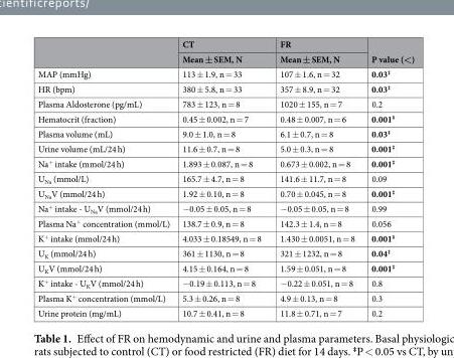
<table><thead><tr><td rowspan="2"></td><td rowspan="2">CT Mean ± SEM, N</td><td rowspan="2">FR Mean ± SEM, N</td><td rowspan="2">P value (&lt;)</td></tr><tr></tr></thead><tbody><tr><td>MAP (mmHg)</td><td>113 ± 1.9, n = 33</td><td>107 ± 1.6, n = 32</td><td>0.03<sup>‡</sup></td></tr><tr><td>HR (bpm)</td><td>380 ± 5.8, n = 33</td><td>357 ± 8.9, n = 32</td><td>0.03<sup>‡</sup></td></tr><tr><td>Plasma Aldosterone (pg/mL)</td><td>783 ± 123, n = 8</td><td>1020 ± 155, n = 7</td><td>0.2</td></tr><tr><td>Hematocrit (fraction)</td><td>0.45 ± 0.002, n = 7</td><td>0.48 ± 0.007, n = 6</td><td>0.001<sup>‡</sup></td></tr><tr><td>Plasma volume (mL)</td><td>9.0 ± 1.0, n = 8</td><td>6.1 ± 0.7, n = 8</td><td>0.03<sup>‡</sup></td></tr><tr><td>Urine volume (mL/24 h)</td><td>11.6 ± 0.7, n = 8</td><td>5.0 ± 0.3, n = 8</td><td>0.001<sup>‡</sup></td></tr><tr><td>Na<sup>+</sup> intake (mmol/24 h)</td><td>1.893 ± 0.087, n = 8</td><td>0.673 ± 0.002, n = 8</td><td>0.001<sup>‡</sup></td></tr><tr><td>U<sub>Na</sub> (mmol/L)</td><td>165.7 ± 4.7, n = 8</td><td>141.6 ± 11.7, n = 8</td><td>0.09</td></tr><tr><td>U<sub>Na</sub>V (mmol/24 h)</td><td>1.92 ± 0.10, n = 8</td><td>0.70 ± 0.045, n = 8</td><td>0.001<sup>‡</sup></td></tr><tr><td>Na<sup>+</sup> intake - U<sub>Na</sub>V (mmol/24 h)</td><td>−0.05 ± 0.05, n = 8</td><td>−0.05 ± 0.05, n = 8</td><td>0.99</td></tr><tr><td>Plasma Na<sup>+</sup> concentration (mmol/L)</td><td>138.7 ± 0.9, n = 8</td><td>142.3 ± 1.4, n = 8</td><td>0.056</td></tr><tr><td>K<sup>+</sup> intake (mmol/24 h)</td><td>4.033 ± 0.18549, n = 8</td><td>1.430 ± 0.0051, n = 8</td><td>0.001<sup>‡</sup></td></tr><tr><td>U<sub>K</sub> (mmol/24 h)</td><td>361 ± 1130, n = 8</td><td>321 ± 1232, n = 8</td><td>0.04<sup>‡</sup></td></tr><tr><td>U<sub>K</sub>V (mmol/24 h)</td><td>4.15 ± 0.164, n = 8</td><td>1.59 ± 0.051, n = 8</td><td>0.001<sup>‡</sup></td></tr><tr><td>K<sup>+</sup> intake - U<sub>K</sub>V (mmol/24 h)</td><td>−0.19 ± 0.113, n = 8</td><td>−0.22 ± 0.051, n = 8</td><td>0.8</td></tr><tr><td>Plasma K<sup>+</sup> concentration (mmol/L)</td><td>5.3 ± 0.26, n = 8</td><td>4.9 ± 0.13, n = 8</td><td>0.3</td></tr><tr><td>Urine protein (mg/mL)</td><td>10.7 ± 0.41, n = 8</td><td>11.8 ± 0.71, n = 7</td><td>0.2</td></tr></tbody></table>